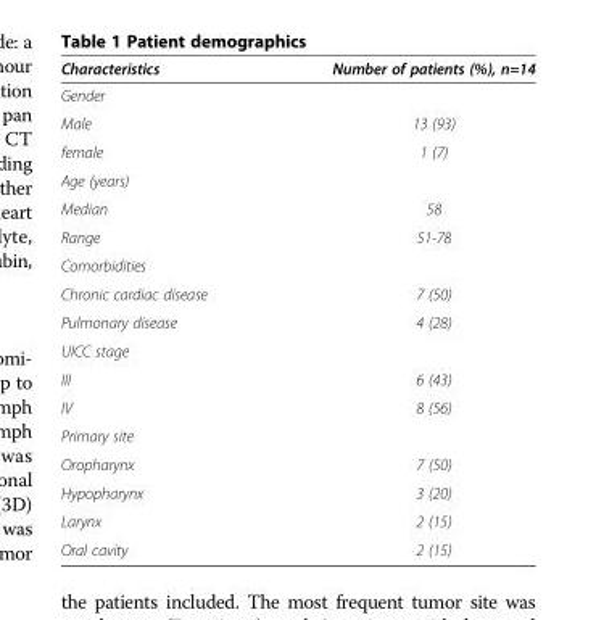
<table><thead><tr><td>Characteristics</td><td>Number of patients (%), n=14</td></tr></thead><tbody><tr><td colspan="2">Gender</td></tr><tr><td>Male</td><td>13 (93)</td></tr><tr><td>female</td><td>1 (7)</td></tr><tr><td colspan="2">Age (years)</td></tr><tr><td>Median</td><td>58</td></tr><tr><td>Range</td><td>51-78</td></tr><tr><td colspan="2">Comorbidities</td></tr><tr><td>Chronic cardiac disease</td><td>7 (50)</td></tr><tr><td>Pulmonary disease</td><td>4 (28)</td></tr><tr><td colspan="2">UICC stage</td></tr><tr><td>III</td><td>6 (43)</td></tr><tr><td>IV</td><td>8 (56)</td></tr><tr><td colspan="2">Primary site</td></tr><tr><td>Oropharynx</td><td>7 (50)</td></tr><tr><td>Hypopharynx</td><td>3 (20)</td></tr><tr><td>Larynx</td><td>2 (15)</td></tr><tr><td>Oral cavity</td><td>2 (15)</td></tr></tbody></table>